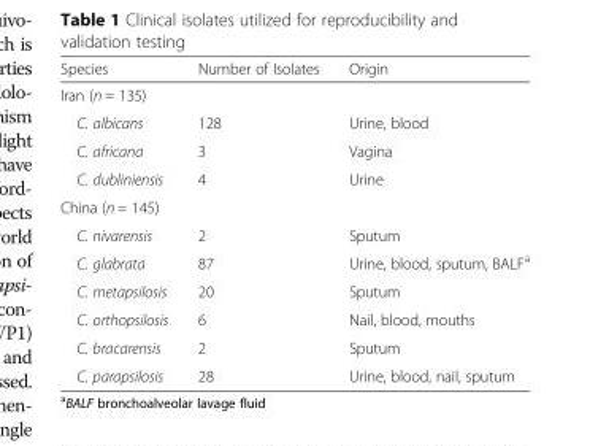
<table><thead><tr><td>Species</td><td>Number of Isolates</td><td>Origin</td></tr></thead><tbody><tr><td colspan="3">Iran (n = 135)</td></tr><tr><td>C. albicans</td><td>128</td><td>Urine, blood</td></tr><tr><td>C. africana</td><td>3</td><td>Vagina</td></tr><tr><td>C. dubliniensis</td><td>4</td><td>Urine</td></tr><tr><td colspan="3">China (n = 145)</td></tr><tr><td>C. nivarensis</td><td>2</td><td>Sputum</td></tr><tr><td>C. glabrata</td><td>87</td><td>Urine, blood, sputum, BALF<sup>a</sup></td></tr><tr><td>C. metapsilosis</td><td>20</td><td>Sputum</td></tr><tr><td>C. orthopsilosis</td><td>6</td><td>Nail, blood, mouths</td></tr><tr><td>C. bracarensis</td><td>2</td><td>Sputum</td></tr><tr><td>C. parapsilosis</td><td>28</td><td>Urine, blood, nail, sputum</td></tr></tbody></table>